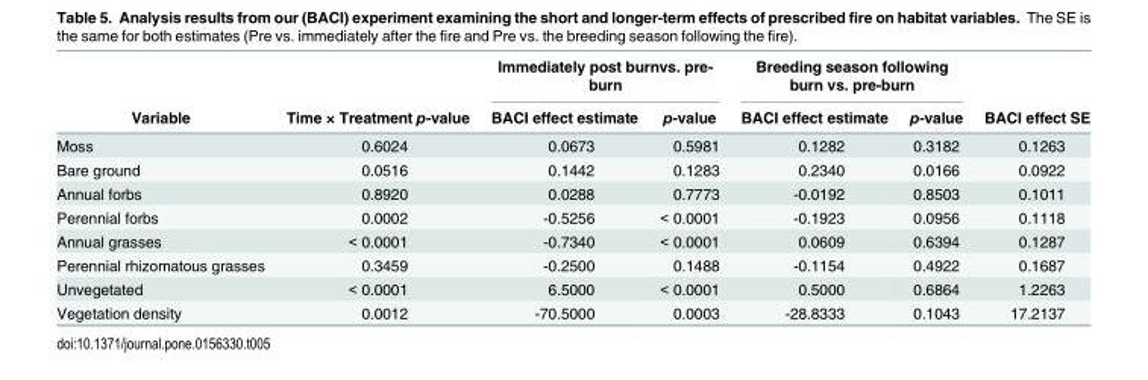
<table><thead><tr><td rowspan="2">Variable</td><td rowspan="2">Time × Treatment p-value</td><td colspan="2">Immediately post burnvs. pre- burn</td><td colspan="2">Breeding season following burn vs. pre-burn</td><td rowspan="2">BACI effect SE</td></tr><tr><td>BACI effect estimate</td><td>p-value</td><td>BACI effect estimate</td><td>p-value</td></tr></thead><tbody><tr><td>Moss</td><td>0.6024</td><td>0.0673</td><td>0.5981</td><td>0.1282</td><td>0.3182</td><td>0.1263</td></tr><tr><td>Bare ground</td><td>0.0516</td><td>0.1442</td><td>0.1283</td><td>0.2340</td><td>0.0166</td><td>0.0922</td></tr><tr><td>Annual forbs</td><td>0.8920</td><td>0.0288</td><td>0.7773</td><td>-0.0192</td><td>0.8503</td><td>0.1011</td></tr><tr><td>Perennial forbs</td><td>0.0002</td><td>-0.5256</td><td>&lt; 0.0001</td><td>-0.1923</td><td>0.0956</td><td>0.1118</td></tr><tr><td>Annual grasses</td><td>&lt; 0.0001</td><td>-0.7340</td><td>&lt; 0.0001</td><td>0.0609</td><td>0.6394</td><td>0.1287</td></tr><tr><td>Perennial rhizomatous grasses</td><td>0.3459</td><td>-0.2500</td><td>0.1488</td><td>-0.1154</td><td>0.4922</td><td>0.1687</td></tr><tr><td>Unvegetated</td><td>&lt; 0.0001</td><td>6.5000</td><td>&lt; 0.0001</td><td>0.5000</td><td>0.6864</td><td>1.2263</td></tr><tr><td>Vegetation density</td><td>0.0012</td><td>-70.5000</td><td>0.0003</td><td>-28.8333</td><td>0.1043</td><td>17.2137</td></tr></tbody></table>